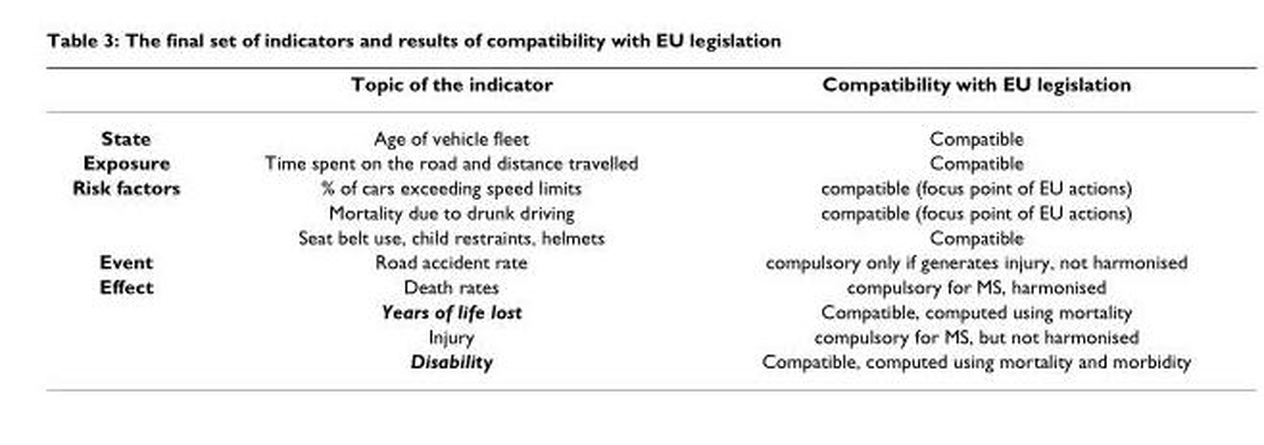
<table><thead><tr><td></td><td>Topic of the indicator</td><td>Compatibility with EU legislation</td></tr></thead><tbody><tr><td>State</td><td>Age of vehicle fleet</td><td>Compatible</td></tr><tr><td>Exposure</td><td>Time spent on the road and distance travelled</td><td>Compatible</td></tr><tr><td rowspan="3">Risk factors</td><td>% of cars exceeding speed limits</td><td>compatible (focus point of EU actions)</td></tr><tr><td>Mortality due to drunk driving</td><td>compatible (focus point of EU actions)</td></tr><tr><td>Seat belt use, child restraints, helmets</td><td>Compatible</td></tr><tr><td>Event</td><td>Road accident rate</td><td>compulsory only if generates injury, not harmonised</td></tr><tr><td rowspan="4">Effect</td><td>Death rates</td><td>compulsory for MS, harmonised</td></tr><tr><td>Years of life lost</td><td>Compatible, computed using mortality</td></tr><tr><td>Injury</td><td>compulsory for MS, but not harmonised</td></tr><tr><td>Disability</td><td>Compatible, computed using mortality and morbidity</td></tr></tbody></table>